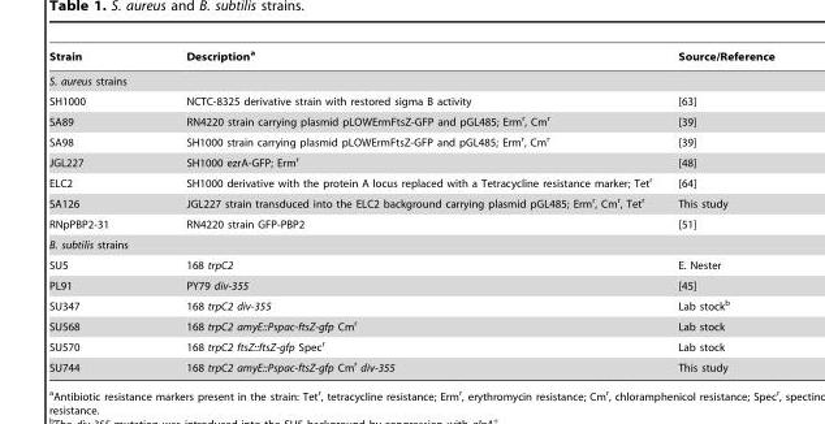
<table><thead><tr><td>Strain</td><td>Description<sup>a</sup></td><td>Source/Reference</td></tr></thead><tbody><tr><td colspan="3">S. aureus strains</td></tr><tr><td>SH1000</td><td>NCTC-8325 derivative strain with restored sigma B activity</td><td>[63]</td></tr><tr><td>SA89</td><td>RN4220 strain carrying plasmid pLOWErmFtsZ-GFP and pGL485; Erm<sup>r</sup>, Cm<sup>r</sup></td><td>[39]</td></tr><tr><td>SA98</td><td>SH1000 strain carrying plasmid pLOWErmFtsZ-GFP and pGL485; Erm<sup>r</sup>, Cm<sup>r</sup></td><td>[39]</td></tr><tr><td>JGL227</td><td>SH1000 ezrA-GFP; Erm<sup>r</sup></td><td>[48]</td></tr><tr><td>ELC2</td><td>SH1000 derivative with the protein A locus replaced with a Tetracycline resistance marker; Tet<sup>r</sup></td><td>[64]</td></tr><tr><td>SA126</td><td>JGL227 strain transduced into the ELC2 background carrying plasmid pGL485; Erm<sup>r</sup>, Cm<sup>r</sup>, Tet<sup>r</sup></td><td>This study</td></tr><tr><td>RNpPBP2-31</td><td>RN4220 strain GFP-PBP2</td><td>[51]</td></tr><tr><td colspan="3">B. subtilis strains</td></tr><tr><td>SU5</td><td>168 trpC2</td><td>E. Nester</td></tr><tr><td>PL91</td><td>PY79 div-355</td><td>[45]</td></tr><tr><td>SU347</td><td>168 trpC2 div-355</td><td>Lab stock<sup>b</sup></td></tr><tr><td>SU568</td><td>168 trpC2 amyE::Pspac-ftsZ-gfp Cm<sup>r</sup></td><td>Lab stock</td></tr><tr><td>SU570</td><td>168 trpC2 ftsZ::ftsZ-gfp Spec<sup>r</sup></td><td>Lab stock</td></tr><tr><td>SU744</td><td>168 trpC2 amyE::Pspac-ftsZ-gfp Cm<sup>r</sup> div-355</td><td>This study</td></tr></tbody></table>